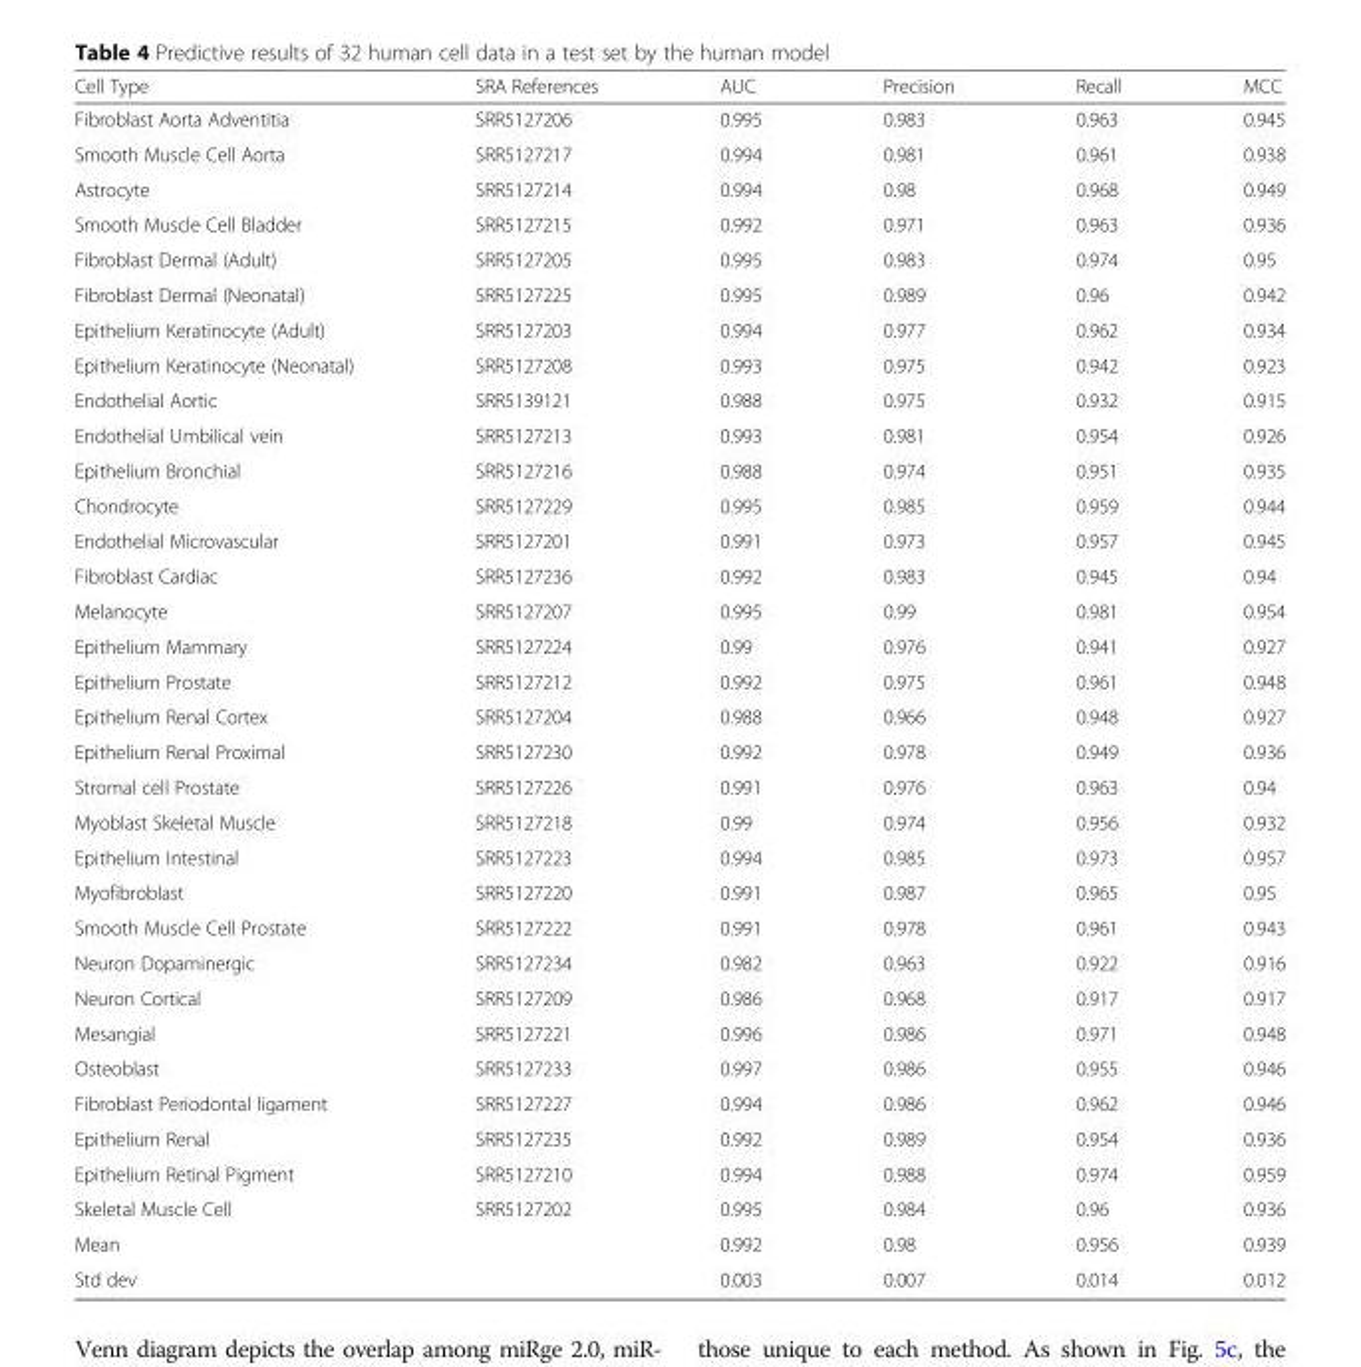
<table><thead><tr><td>Cell Type</td><td>SRA References</td><td>AUC</td><td>Precision</td><td>Recall</td><td>MCC</td></tr></thead><tbody><tr><td>Fibroblast Aorta Adventitia</td><td>SRR5127206</td><td>0.995</td><td>0.983</td><td>0.963</td><td>0.945</td></tr><tr><td>Smooth Muscle Cell Aorta</td><td>SRR5127217</td><td>0.994</td><td>0.981</td><td>0.961</td><td>0.938</td></tr><tr><td>Astrocyte</td><td>SRR5127214</td><td>0.994</td><td>0.98</td><td>0.968</td><td>0.949</td></tr><tr><td>Smooth Muscle Cell Bladder</td><td>SRR5127215</td><td>0.992</td><td>0.971</td><td>0.963</td><td>0.936</td></tr><tr><td>Fibroblast Dermal (Adult)</td><td>SRR5127205</td><td>0.995</td><td>0.983</td><td>0.974</td><td>0.95</td></tr><tr><td>Fibroblast Dermal (Neonatal)</td><td>SRR5127225</td><td>0.995</td><td>0.989</td><td>0.96</td><td>0.942</td></tr><tr><td>Epithelium Keratinocyte (Adult)</td><td>SRR5127203</td><td>0.994</td><td>0.977</td><td>0.962</td><td>0.934</td></tr><tr><td>Epithelium Keratinocyte (Neonatal)</td><td>SRR5127208</td><td>0.993</td><td>0.975</td><td>0.942</td><td>0.923</td></tr><tr><td>Endothelial Aortic</td><td>SRR5139121</td><td>0.988</td><td>0.975</td><td>0.932</td><td>0.915</td></tr><tr><td>Endothelial Umbilical vein</td><td>SRR5127213</td><td>0.993</td><td>0.981</td><td>0.954</td><td>0.926</td></tr><tr><td>Epithelium Bronchial</td><td>SRR5127216</td><td>0.988</td><td>0.974</td><td>0.951</td><td>0.935</td></tr><tr><td>Chondrocyte</td><td>SRR5127229</td><td>0.995</td><td>0.985</td><td>0.959</td><td>0.944</td></tr><tr><td>Endothelial Microvascular</td><td>SRR5127201</td><td>0.991</td><td>0.973</td><td>0.957</td><td>0.945</td></tr><tr><td>Fibroblast Cardiac</td><td>SRR5127236</td><td>0.992</td><td>0.983</td><td>0.945</td><td>0.94</td></tr><tr><td>Melanocyte</td><td>SRR5127207</td><td>0.995</td><td>0.99</td><td>0.981</td><td>0.954</td></tr><tr><td>Epithelium Mammary</td><td>SRR5127224</td><td>0.99</td><td>0.976</td><td>0.941</td><td>0.927</td></tr><tr><td>Epithelium Prostate</td><td>SRR5127212</td><td>0.992</td><td>0.975</td><td>0.961</td><td>0.948</td></tr><tr><td>Epithelium Renal Cortex</td><td>SRR5127204</td><td>0.988</td><td>0.966</td><td>0.948</td><td>0.927</td></tr><tr><td>Epithelium Renal Proximal</td><td>SRR5127230</td><td>0.992</td><td>0.978</td><td>0.949</td><td>0.936</td></tr><tr><td>Stromal cell Prostate</td><td>SRR5127226</td><td>0.991</td><td>0.976</td><td>0.963</td><td>0.94</td></tr><tr><td>Myoblast Skeletal Muscle</td><td>SRR5127218</td><td>0.99</td><td>0.974</td><td>0.956</td><td>0.932</td></tr><tr><td>Epithelium Intestinal</td><td>SRR5127223</td><td>0.994</td><td>0.985</td><td>0.973</td><td>0.957</td></tr><tr><td>Myofibroblast</td><td>SRR5127220</td><td>0.991</td><td>0.987</td><td>0.965</td><td>0.95</td></tr><tr><td>Smooth Muscle Cell Prostate</td><td>SRR5127222</td><td>0.991</td><td>0.978</td><td>0.961</td><td>0.943</td></tr><tr><td>Neuron Dopaminergic</td><td>SRR5127234</td><td>0.982</td><td>0.963</td><td>0.922</td><td>0.916</td></tr><tr><td>Neuron Cortical</td><td>SRR5127209</td><td>0.986</td><td>0.968</td><td>0.917</td><td>0.917</td></tr><tr><td>Mesangial</td><td>SRR5127221</td><td>0.996</td><td>0.986</td><td>0.971</td><td>0.948</td></tr><tr><td>Osteoblast</td><td>SRR5127233</td><td>0.997</td><td>0.986</td><td>0.955</td><td>0.946</td></tr><tr><td>Fibroblast Periodontal ligament</td><td>SRR5127227</td><td>0.994</td><td>0.986</td><td>0.962</td><td>0.946</td></tr><tr><td>Epithelium Renal</td><td>SRR5127235</td><td>0.992</td><td>0.989</td><td>0.954</td><td>0.936</td></tr><tr><td>Epithelium Retinal Pigment</td><td>SRR5127210</td><td>0.994</td><td>0.988</td><td>0.974</td><td>0.959</td></tr><tr><td>Skeletal Muscle Cell</td><td>SRR5127202</td><td>0.995</td><td>0.984</td><td>0.96</td><td>0.936</td></tr><tr><td>Mean</td><td></td><td>0.992</td><td>0.98</td><td>0.956</td><td>0.939</td></tr><tr><td>Std dev</td><td></td><td>0.003</td><td>0.007</td><td>0.014</td><td>0.012</td></tr></tbody></table>